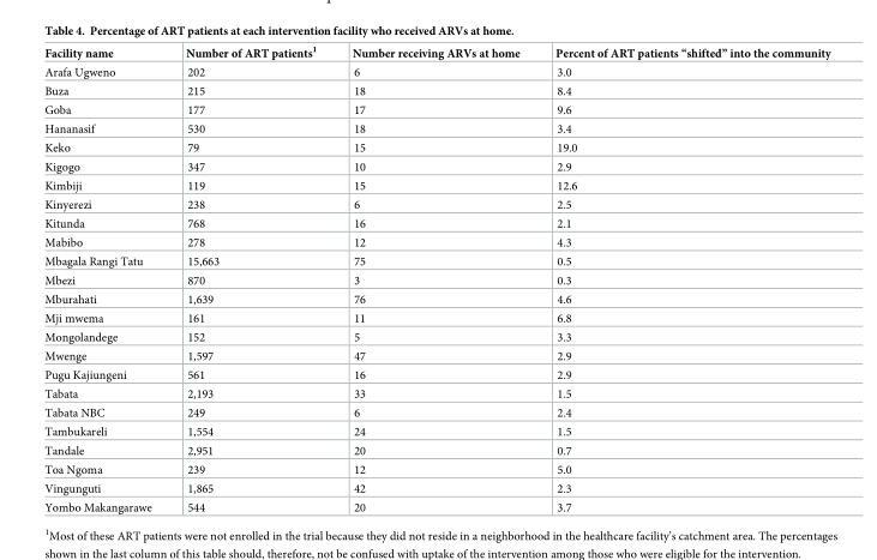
<table><thead><tr><td>Facility name</td><td>Number of ART patients<sup>1</sup></td><td>Number receiving ARVs at home</td><td>Percent of ART patients “shifted” into the community</td></tr></thead><tbody><tr><td>Arafa Ugweno</td><td>202</td><td>6</td><td>3.0</td></tr><tr><td>Buza</td><td>215</td><td>18</td><td>8.4</td></tr><tr><td>Goba</td><td>177</td><td>17</td><td>9.6</td></tr><tr><td>Hananasif</td><td>530</td><td>18</td><td>3.4</td></tr><tr><td>Keko</td><td>79</td><td>15</td><td>19.0</td></tr><tr><td>Kigogo</td><td>347</td><td>10</td><td>2.9</td></tr><tr><td>Kimbiji</td><td>119</td><td>15</td><td>12.6</td></tr><tr><td>Kinyerezi</td><td>238</td><td>6</td><td>2.5</td></tr><tr><td>Kitunda</td><td>768</td><td>16</td><td>2.1</td></tr><tr><td>Mabibo</td><td>278</td><td>12</td><td>4.3</td></tr><tr><td>Mbagala Rangi Tatu</td><td>15,663</td><td>75</td><td>0.5</td></tr><tr><td>Mbezi</td><td>870</td><td>3</td><td>0.3</td></tr><tr><td>Mburahati</td><td>1,639</td><td>76</td><td>4.6</td></tr><tr><td>Mji mwema</td><td>161</td><td>11</td><td>6.8</td></tr><tr><td>Mongolandege</td><td>152</td><td>5</td><td>3.3</td></tr><tr><td>Mwenge</td><td>1,597</td><td>47</td><td>2.9</td></tr><tr><td>Pugu Kajiungeni</td><td>561</td><td>16</td><td>2.9</td></tr><tr><td>Tabata</td><td>2,193</td><td>33</td><td>1.5</td></tr><tr><td>Tabata NBC</td><td>249</td><td>6</td><td>2.4</td></tr><tr><td>Tambukareli</td><td>1,554</td><td>24</td><td>1.5</td></tr><tr><td>Tandale</td><td>2,951</td><td>20</td><td>0.7</td></tr><tr><td>Toa Ngoma</td><td>239</td><td>12</td><td>5.0</td></tr><tr><td>Vingunguti</td><td>1,865</td><td>42</td><td>2.3</td></tr><tr><td>Yombo Makangarawe</td><td>544</td><td>20</td><td>3.7</td></tr></tbody></table>